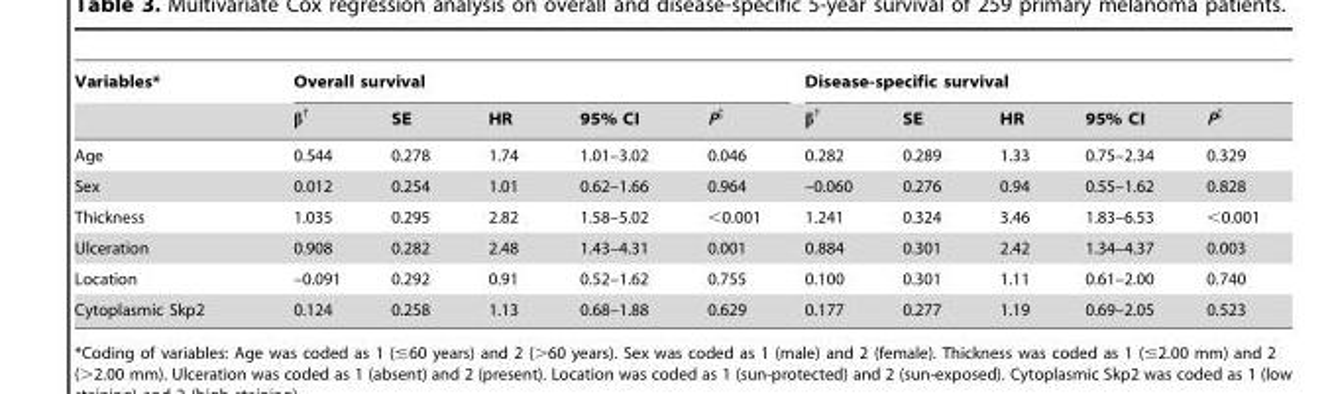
<table><thead><tr><td rowspan="2">Variables*</td><td colspan="5">Overall survival</td><td colspan="5">Disease-specific survival</td></tr><tr><td>β†</td><td>SE</td><td>HR</td><td>95% CI</td><td>P‡</td><td>β†</td><td>SE</td><td>HR</td><td>95% CI</td><td>P‡</td></tr></thead><tbody><tr><td>Age</td><td>0.544</td><td>0.278</td><td>1.74</td><td>1.01–3.02</td><td>0.046</td><td>0.282</td><td>0.289</td><td>1.33</td><td>0.75–2.34</td><td>0.329</td></tr><tr><td>Sex</td><td>0.012</td><td>0.254</td><td>1.01</td><td>0.62–1.66</td><td>0.964</td><td>–0.060</td><td>0.276</td><td>0.94</td><td>0.55–1.62</td><td>0.828</td></tr><tr><td>Thickness</td><td>1.035</td><td>0.295</td><td>2.82</td><td>1.58–5.02</td><td>&lt;0.001</td><td>1.241</td><td>0.324</td><td>3.46</td><td>1.83–6.53</td><td>&lt;0.001</td></tr><tr><td>Ulceration</td><td>0.908</td><td>0.282</td><td>2.48</td><td>1.43–4.31</td><td>0.001</td><td>0.884</td><td>0.301</td><td>2.42</td><td>1.34–4.37</td><td>0.003</td></tr><tr><td>Location</td><td>–0.091</td><td>0.292</td><td>0.91</td><td>0.52–1.62</td><td>0.755</td><td>0.100</td><td>0.301</td><td>1.11</td><td>0.61–2.00</td><td>0.740</td></tr><tr><td>Cytoplasmic Skp2</td><td>0.124</td><td>0.258</td><td>1.13</td><td>0.68–1.88</td><td>0.629</td><td>0.177</td><td>0.277</td><td>1.19</td><td>0.69–2.05</td><td>0.523</td></tr></tbody></table>